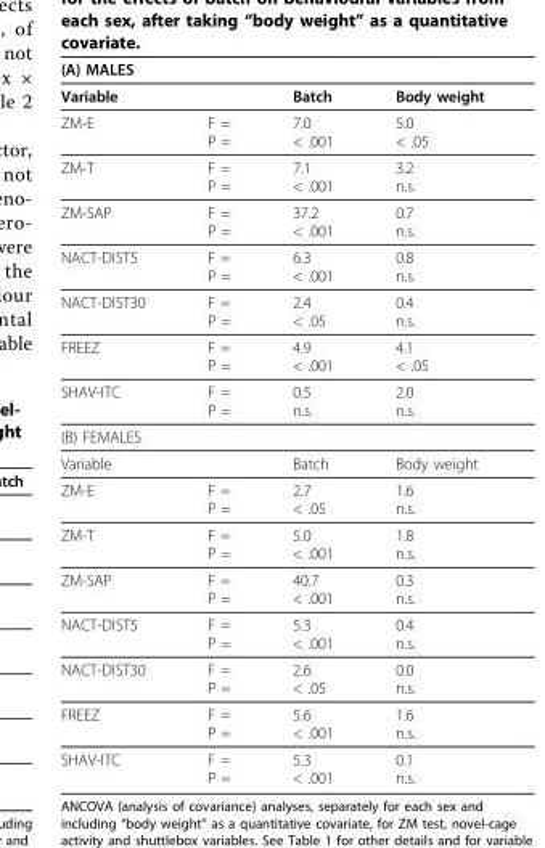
<table><thead><tr><td>(A) MALES</td><td></td><td></td><td></td></tr></thead><tbody><tr><td>Variable</td><td></td><td>Batch</td><td>Body weight</td></tr><tr><td>ZM-E</td><td>F = P =</td><td>7.0 &lt; .001</td><td>5.0 &lt; .05</td></tr><tr><td>ZM-T</td><td>F = P =</td><td>7.1 &lt; .001</td><td>3.2 n.s.</td></tr><tr><td>ZM-SAP</td><td>F = P =</td><td>37.2 &lt; .001</td><td>0.7 n.s.</td></tr><tr><td>NACT-DIST5</td><td>F = P =</td><td>6.3 &lt; .001</td><td>0.8 n.s.</td></tr><tr><td>NACT-DIST30</td><td>F = P =</td><td>2.4 &lt; .05</td><td>0.4 n.s.</td></tr><tr><td>FREEZ</td><td>F = P =</td><td>4.9 &lt; .001</td><td>4.1 &lt; .05</td></tr><tr><td>SHAV-ITC</td><td>F = P =</td><td>0.5 n.s.</td><td>2.0 n.s.</td></tr><tr><td colspan="4">(B) FEMALES</td></tr><tr><td>Variable</td><td></td><td>Batch</td><td>Body weight</td></tr><tr><td>ZM-E</td><td>F = P =</td><td>2.7 &lt; .05</td><td>1.6 n.s.</td></tr><tr><td>ZM-T</td><td>F = P =</td><td>5.0 &lt; .001</td><td>1.8 n.s.</td></tr><tr><td>ZM-SAP</td><td>F = P =</td><td>40.7 &lt; .001</td><td>0.3 n.s.</td></tr><tr><td>NACT-DIST5</td><td>F = P =</td><td>5.3 &lt; .001</td><td>0.4 n.s.</td></tr><tr><td>NACT-DIST30</td><td>F = P =</td><td>2.6 &lt; .05</td><td>0.0 n.s.</td></tr><tr><td>FREEZ</td><td>F = P =</td><td>5.6 &lt; .001</td><td>1.6 n.s.</td></tr><tr><td>SHAV-ITC</td><td>F = P =</td><td>5.3 &lt; .001</td><td>0.1 n.s.</td></tr></tbody></table>